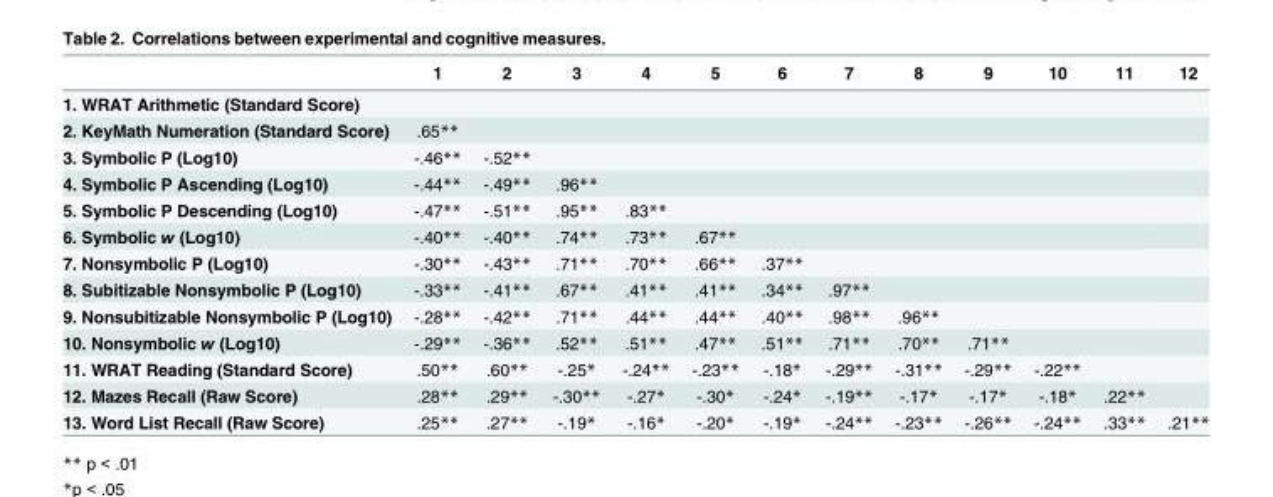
<table><thead><tr><td></td><td>1</td><td>2</td><td>3</td><td>4</td><td>5</td><td>6</td><td>7</td><td>8</td><td>9</td><td>10</td><td>11</td><td>12</td></tr></thead><tbody><tr><td colspan="13">1. WRAT Arithmetic (Standard Score)</td></tr><tr><td>2. KeyMath Numeration (Standard Score)</td><td>.65**</td><td></td><td></td><td></td><td></td><td></td><td></td><td></td><td></td><td></td><td></td><td></td></tr><tr><td>3. Symbolic P (Log10)</td><td>-.46**</td><td>-.52**</td><td></td><td></td><td></td><td></td><td></td><td></td><td></td><td></td><td></td><td></td></tr><tr><td>4. Symbolic P Ascending (Log10)</td><td>-.44**</td><td>-.49**</td><td>.96**</td><td></td><td></td><td></td><td></td><td></td><td></td><td></td><td></td><td></td></tr><tr><td>5. Symbolic P Descending (Log10)</td><td>-.47**</td><td>-.51**</td><td>.95**</td><td>.83**</td><td></td><td></td><td></td><td></td><td></td><td></td><td></td><td></td></tr><tr><td>6. Symbolic w (Log10)</td><td>-.40**</td><td>-.40**</td><td>.74**</td><td>.73**</td><td>.67**</td><td></td><td></td><td></td><td></td><td></td><td></td><td></td></tr><tr><td>7. Nonsymbolic P (Log10)</td><td>-.30**</td><td>-.43**</td><td>.71**</td><td>.70**</td><td>.66**</td><td>.37**</td><td></td><td></td><td></td><td></td><td></td><td></td></tr><tr><td>8. Subitizable Nonsymbolic P (Log10)</td><td>-.33**</td><td>-.41**</td><td>.67**</td><td>.41**</td><td>.41**</td><td>.34**</td><td>.97**</td><td></td><td></td><td></td><td></td><td></td></tr><tr><td>9. Nonsubitizable Nonsymbolic P (Log10)</td><td>-.28**</td><td>-.42**</td><td>.71**</td><td>.44**</td><td>.44**</td><td>.40**</td><td>.98**</td><td>.96**</td><td></td><td></td><td></td><td></td></tr><tr><td>10. Nonsymbolic w (Log10)</td><td>-.29**</td><td>-.36**</td><td>.52**</td><td>.51**</td><td>.47**</td><td>.51**</td><td>.71**</td><td>.70**</td><td>.71**</td><td></td><td></td><td></td></tr><tr><td>11. WRAT Reading (Standard Score)</td><td>.50**</td><td>.60**</td><td>-.25*</td><td>-.24**</td><td>-.23**</td><td>-.18*</td><td>-.29**</td><td>-.31**</td><td>-.29**</td><td>-.22**</td><td></td><td></td></tr><tr><td>12. Mazes Recall (Raw Score)</td><td>.28**</td><td>.29**</td><td>-.30**</td><td>-.27*</td><td>-.30*</td><td>-.24*</td><td>-.19**</td><td>-.17*</td><td>-.17*</td><td>-.18*</td><td>.22**</td><td></td></tr><tr><td>13. Word List Recall (Raw Score)</td><td>.25**</td><td>.27**</td><td>-.19*</td><td>-.16*</td><td>-.20*</td><td>-.19*</td><td>-.24**</td><td>-.23**</td><td>-.26**</td><td>-.24**</td><td>.33**</td><td>.21**</td></tr></tbody></table>